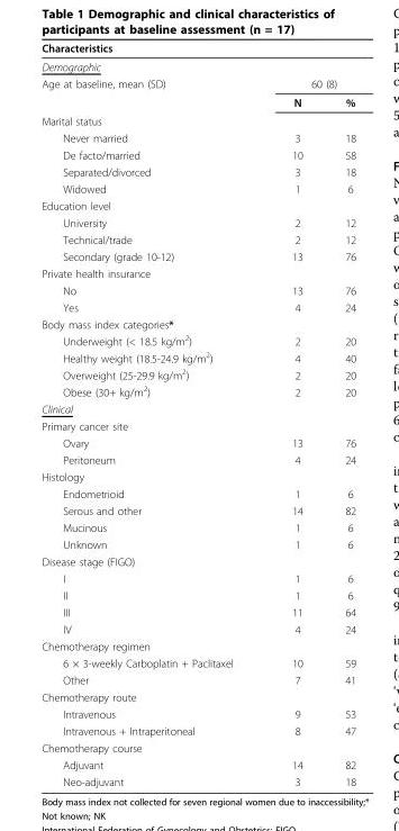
<table><thead><tr><td>Characteristics</td><td></td><td></td></tr></thead><tbody><tr><td colspan="3">Demographic</td></tr><tr><td rowspan="2">Age at baseline, mean (SD)</td><td colspan="2">60 (8)</td></tr><tr><td>N</td><td>%</td></tr><tr><td colspan="3">Marital status</td></tr><tr><td>Never married</td><td>3</td><td>18</td></tr><tr><td>De facto/married</td><td>10</td><td>58</td></tr><tr><td>Separated/divorced</td><td>3</td><td>18</td></tr><tr><td>Widowed</td><td>1</td><td>6</td></tr><tr><td colspan="3">Education level</td></tr><tr><td>University</td><td>2</td><td>12</td></tr><tr><td>Technical/trade</td><td>2</td><td>12</td></tr><tr><td>Secondary (grade 10-12)</td><td>13</td><td>76</td></tr><tr><td colspan="3">Private health insurance</td></tr><tr><td>No</td><td>13</td><td>76</td></tr><tr><td>Yes</td><td>4</td><td>24</td></tr><tr><td colspan="3">Body mass index categories*</td></tr><tr><td>Underweight (&lt; 18.5 kg/m<sup>2</sup>)</td><td>2</td><td>20</td></tr><tr><td>Healthy weight (18.5-24.9 kg/m<sup>2</sup>)</td><td>4</td><td>40</td></tr><tr><td>Overweight (25-29.9 kg/m<sup>2</sup>)</td><td>2</td><td>20</td></tr><tr><td>Obese (30+ kg/m<sup>2</sup>)</td><td>2</td><td>20</td></tr><tr><td colspan="3">Clinical</td></tr><tr><td colspan="3">Primary cancer site</td></tr><tr><td>Ovary</td><td>13</td><td>76</td></tr><tr><td>Peritoneum</td><td>4</td><td>24</td></tr><tr><td colspan="3">Histology</td></tr><tr><td>Endometrioid</td><td>1</td><td>6</td></tr><tr><td>Serous and other</td><td>14</td><td>82</td></tr><tr><td>Mucinous</td><td>1</td><td>6</td></tr><tr><td>Unknown</td><td>1</td><td>6</td></tr><tr><td colspan="3">Disease stage (FIGO)</td></tr><tr><td>I</td><td>1</td><td>6</td></tr><tr><td>II</td><td>1</td><td>6</td></tr><tr><td>III</td><td>11</td><td>64</td></tr><tr><td>IV</td><td>4</td><td>24</td></tr><tr><td colspan="3">Chemotherapy regimen</td></tr><tr><td>6 × 3-weekly Carboplatin + Paclitaxel</td><td>10</td><td>59</td></tr><tr><td>Other</td><td>7</td><td>41</td></tr><tr><td colspan="3">Chemotherapy route</td></tr><tr><td>Intravenous</td><td>9</td><td>53</td></tr><tr><td>Intravenous + Intraperitoneal</td><td>8</td><td>47</td></tr><tr><td colspan="3">Chemotherapy course</td></tr><tr><td>Adjuvant</td><td>14</td><td>82</td></tr><tr><td>Neo-adjuvant</td><td>3</td><td>18</td></tr></tbody></table>